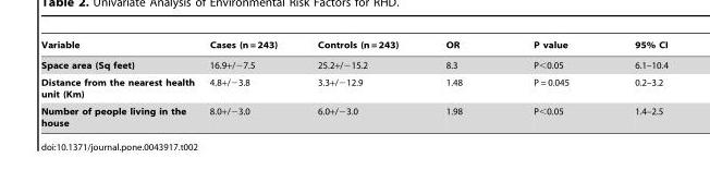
<table><thead><tr><td>Variable</td><td>Cases (n = 243)</td><td>Controls (n = 243)</td><td>OR</td><td>P value</td><td>95% CI</td></tr></thead><tbody><tr><td>Space area (Sq feet)</td><td>16.9+/−7.5</td><td>25.2+/−15.2</td><td>8.3</td><td>P&lt;0.05</td><td>6.1–10.4</td></tr><tr><td>Distance from the nearest health unit (Km)</td><td>4.8+/−3.8</td><td>3.3+/−12.9</td><td>1.48</td><td>P = 0.045</td><td>0.2–3.2</td></tr><tr><td>Number of people living in the house</td><td>8.0+/−3.0</td><td>6.0+/−3.0</td><td>1.98</td><td>P&lt;0.05</td><td>1.4–2.5</td></tr></tbody></table>